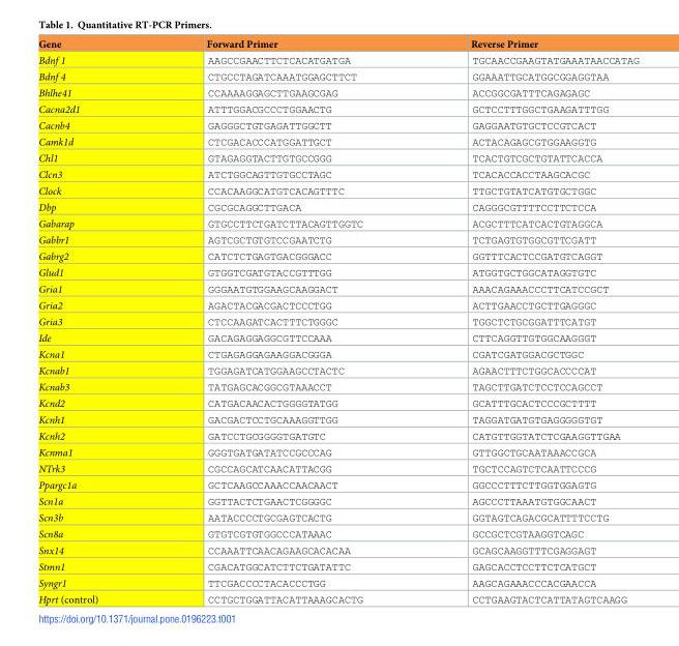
<table><thead><tr><td>Gene</td><td>Forward Primer</td><td>Reverse Primer</td></tr></thead><tbody><tr><td>Bdnf 1</td><td>AAGCCGAACTTCTCACATGATGA</td><td>TGCAACCGAAGTATGAAATAACCATAG</td></tr><tr><td>Bdnf 4</td><td>CTGCCTAGATCAAATGGAGCTTCT</td><td>GGAAATTGCATGGCGGAGGTAA</td></tr><tr><td>Bhlhe41</td><td>CCAAAAGGAGCTTGAAGCGAG</td><td>ACCGGCGATTTCAGAGAGC</td></tr><tr><td>Cacna2d1</td><td>ATTTGGACGCCCTGGAACTG</td><td>GCTCCTTTGGCTGAAGATTTGG</td></tr><tr><td>Cacnb4</td><td>GAGGGCTGTGAGATTGGCTT</td><td>GAGGAATGTGCTCCGTCACT</td></tr><tr><td>Camk1d</td><td>CTCGACACCCATGGATTGCT</td><td>ACTACAGAGCGTGGAAGGTG</td></tr><tr><td>Chl1</td><td>GTAGAGGTACTTGTGCCGGG</td><td>TCACTGTCGCTGTATTCACCA</td></tr><tr><td>Clcn3</td><td>ATCTGGCAGTTGTGCCTAGC</td><td>TCACACCACCTAAGCACGC</td></tr><tr><td>Clock</td><td>CCACAAGGCATGTCACAGTTTC</td><td>TTGCTGTATCATGTGCTGGC</td></tr><tr><td>Dbp</td><td>CGCGCAGGCTTGACA</td><td>CAGGGCGTTTTCCTTCTCCA</td></tr><tr><td>Gabarap</td><td>GTGCCTTCTGATCTTACAGTTGGTC</td><td>ACGCTTTCATCACTGTAGGCA</td></tr><tr><td>Gabbr1</td><td>AGTCGCTGTGTCCGAATCTG</td><td>TCTGAGTGTGGCGTTCGATT</td></tr><tr><td>Gabrg2</td><td>CATCTCTGAGTGACGGGACC</td><td>GGTTTCACTCCGATGTCAGGT</td></tr><tr><td>Glud1</td><td>GTGGTCGATGTACCGTTTGG</td><td>ATGGTGCTGGCATAGGTGTC</td></tr><tr><td>Gria1</td><td>GGGAATGTGGAAGCAAGGACT</td><td>AAACAGAAACCCTTCATCCGCT</td></tr><tr><td>Gria2</td><td>AGACTACGACGACTCCCTGG</td><td>ACTTGAACCTGCTTGAGGGC</td></tr><tr><td>Gria3</td><td>CTCCAAGATCACTTTCTGGGC</td><td>TGGCTCTGCGGATTTCATGT</td></tr><tr><td>Ide</td><td>GACAGAGGAGGCGTTCCAAA</td><td>CTTCAGGTTGTGGCAAGGGT</td></tr><tr><td>Kcna1</td><td>CTGAGAGGAGAAGGACGGGA</td><td>CGATCGATGGACGCTGGC</td></tr><tr><td>Kcnab1</td><td>TGGAGATCATGGAAGCCTACTC</td><td>AGAACTTTCTGGCACCCCAT</td></tr><tr><td>Kcnab3</td><td>TATGAGCACGGCGTAAACCT</td><td>TAGCTTGATCTCCTCCAGCCT</td></tr><tr><td>Kcnd2</td><td>CATGACAACACTGGGGTATGG</td><td>GCATTTGCACTCCCGCTTTT</td></tr><tr><td>Kcnh1</td><td>GACGACTCCTGCAAAGGTTGG</td><td>TAGGATGATGTGAGGGGGTGT</td></tr><tr><td>Kcnh2</td><td>GATCCTGCGGGGTGATGTC</td><td>CATGTTGGTATCTCGAAGGTTGAA</td></tr><tr><td>Kcnma1</td><td>GGGTGATGATATCCGCCCAG</td><td>GTTGGCTGCAATAAACCGCA</td></tr><tr><td>NTrk3</td><td>CGCCAGCATCAACATTACGG</td><td>TGCTCCAGTCTCAATTCCCG</td></tr><tr><td>Ppargc1a</td><td>GCTCAAGCCAAACCAACAACT</td><td>GGCCCTTTCTTGGTGGAGTG</td></tr><tr><td>Scn1a</td><td>GGTTACTCTGAACTCGGGGC</td><td>AGCCCTTAAATGTGGCAACT</td></tr><tr><td>Scn3b</td><td>AATACCCCTGCGAGTCACTG</td><td>GGTAGTCAGACGCATTTTCCTG</td></tr><tr><td>Scn8a</td><td>GTGTCGTGTGGCCCATAAAC</td><td>GCCGCTCGTAAGGTCAGC</td></tr><tr><td>Snx14</td><td>CCAAATTCAACAGAAGCACACAA</td><td>GCAGCAAGGTTTCGAGGAGT</td></tr><tr><td>Stmn1</td><td>CGACATGGCATCTTCTGATATTC</td><td>GAGCACCTCCTTCTCATGCT</td></tr><tr><td>Syngr1</td><td>TTCGACCCCTACACCCTGG</td><td>AAGCAGAAACCCACGAACCA</td></tr><tr><td>Hprt (control)</td><td>CCTGCTGGATTACATTAAAGCACTG</td><td>CCTGAAGTACTCATTATAGTCAAGG</td></tr></tbody></table>